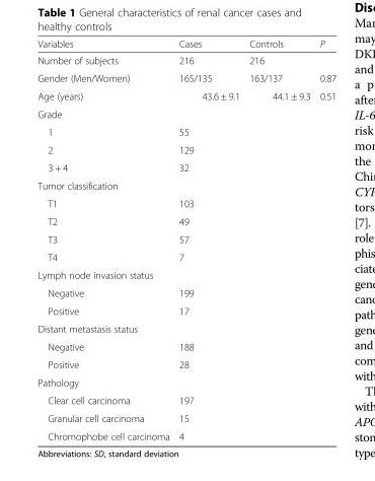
<table><thead><tr><td>Variables</td><td>Cases</td><td>Controls</td><td>P</td></tr></thead><tbody><tr><td>Number of subjects</td><td>216</td><td>216</td><td></td></tr><tr><td>Gender (Men/Women)</td><td>165/135</td><td>163/137</td><td>0.87</td></tr><tr><td>Age (years)</td><td>43.6 ± 9.1</td><td>44.1 ± 9.3</td><td>0.51</td></tr><tr><td colspan="4">Grade</td></tr><tr><td>1</td><td>55</td><td></td><td></td></tr><tr><td>2</td><td>129</td><td></td><td></td></tr><tr><td>3 + 4</td><td>32</td><td></td><td></td></tr><tr><td colspan="4">Tumor classification</td></tr><tr><td>T1</td><td>103</td><td></td><td></td></tr><tr><td>T2</td><td>49</td><td></td><td></td></tr><tr><td>T3</td><td>57</td><td></td><td></td></tr><tr><td>T4</td><td>7</td><td></td><td></td></tr><tr><td colspan="4">Lymph node invasion status</td></tr><tr><td>Negative</td><td>199</td><td></td><td></td></tr><tr><td>Positive</td><td>17</td><td></td><td></td></tr><tr><td colspan="4">Distant metastasis status</td></tr><tr><td>Negative</td><td>188</td><td></td><td></td></tr><tr><td>Positive</td><td>28</td><td></td><td></td></tr><tr><td colspan="4">Pathology</td></tr><tr><td>Clear cell carcinoma</td><td>197</td><td></td><td></td></tr><tr><td>Granular cell carcinoma</td><td>15</td><td></td><td></td></tr><tr><td>Chromophobe cell carcinoma</td><td>4</td><td></td><td></td></tr></tbody></table>